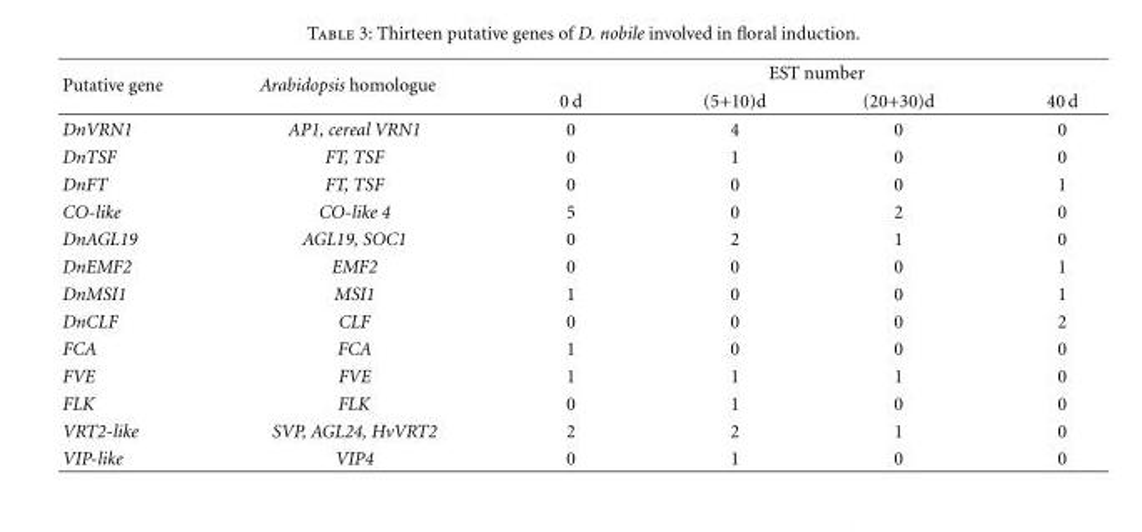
<table><thead><tr><td rowspan="2">Putative gene</td><td rowspan="2">Arabidopsis homologue</td><td colspan="4">EST number</td></tr><tr><td>0 d</td><td>(5+10)d</td><td>(20+30)d</td><td>40 d</td></tr></thead><tbody><tr><td>DnVRN1</td><td>AP1, cereal VRN1</td><td>0</td><td>4</td><td>0</td><td>0</td></tr><tr><td>DnTSF</td><td>FT, TSF</td><td>0</td><td>1</td><td>0</td><td>0</td></tr><tr><td>DnFT</td><td>FT, TSF</td><td>0</td><td>0</td><td>0</td><td>1</td></tr><tr><td>CO-like</td><td>CO-like 4</td><td>5</td><td>0</td><td>2</td><td>0</td></tr><tr><td>DnAGL19</td><td>AGL19, SOC1</td><td>0</td><td>2</td><td>1</td><td>0</td></tr><tr><td>DnEMF2</td><td>EMF2</td><td>0</td><td>0</td><td>0</td><td>1</td></tr><tr><td>DnMSI1</td><td>MSI1</td><td>1</td><td>0</td><td>0</td><td>1</td></tr><tr><td>DnCLF</td><td>CLF</td><td>0</td><td>0</td><td>0</td><td>2</td></tr><tr><td>FCA</td><td>FCA</td><td>1</td><td>0</td><td>0</td><td>0</td></tr><tr><td>FVE</td><td>FVE</td><td>1</td><td>1</td><td>1</td><td>0</td></tr><tr><td>FLK</td><td>FLK</td><td>0</td><td>1</td><td>0</td><td>0</td></tr><tr><td>VRT2-like</td><td>SVP, AGL24, HvVRT2</td><td>2</td><td>2</td><td>1</td><td>0</td></tr><tr><td>VIP-like</td><td>VIP4</td><td>0</td><td>1</td><td>0</td><td>0</td></tr></tbody></table>